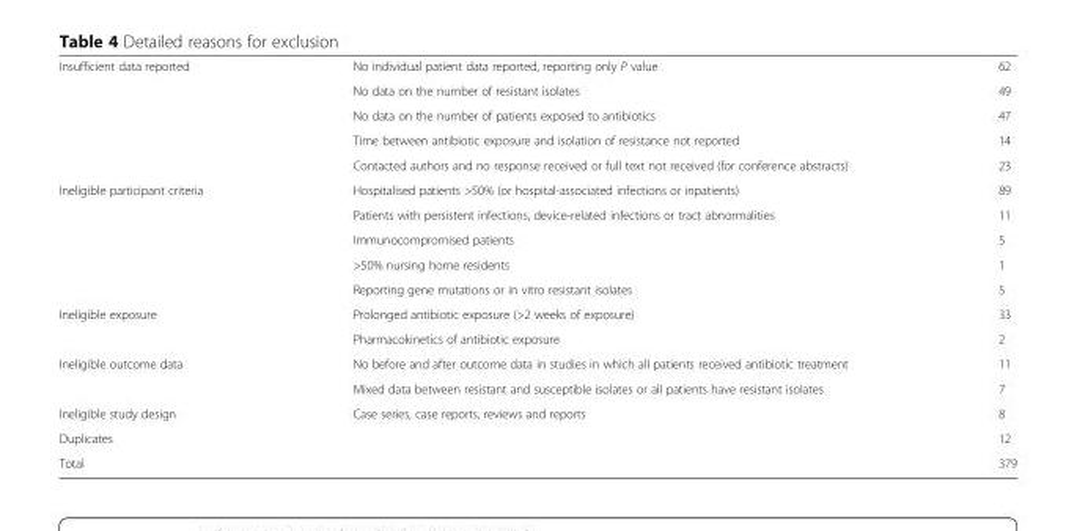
<table><tbody><tr><td rowspan="5">Insufficient data reported</td><td>No individual patient data reported, reporting only P value</td><td>62</td></tr><tr><td>No data on the number of resistant isolates</td><td>49</td></tr><tr><td>No data on the number of patients exposed to antibiotics</td><td>47</td></tr><tr><td>Time between antibiotic exposure and isolation of resistance not reported</td><td>14</td></tr><tr><td>Contacted authors and no response received or full text not received (for conference abstracts)</td><td>23</td></tr><tr><td rowspan="5">Ineligible participant criteria</td><td>Hospitalised patients &gt;50% (or hospital-associated infections or inpatients)</td><td>89</td></tr><tr><td>Patients with persistent infections, device-related infections or tract abnormalities</td><td>11</td></tr><tr><td>Immunocompromised patients</td><td>5</td></tr><tr><td>&gt;50% nursing home residents</td><td>1</td></tr><tr><td>Reporting gene mutations or in vitro resistant isolates</td><td>5</td></tr><tr><td rowspan="2">Ineligible exposure</td><td>Prolonged antibiotic exposure (&gt;2 weeks of exposure)</td><td>33</td></tr><tr><td>Pharmacokinetics of antibiotic exposure</td><td>2</td></tr><tr><td rowspan="2">Ineligible outcome data</td><td>No before and after outcome data in studies in which all patients received antibiotic treatment</td><td>11</td></tr><tr><td>Mixed data between resistant and susceptible isolates or all patients have resistant isolates</td><td>7</td></tr><tr><td>Ineligible study design</td><td>Case series, case reports, reviews and reports</td><td>8</td></tr><tr><td>Duplicates</td><td></td><td>12</td></tr><tr><td>Total</td><td></td><td>379</td></tr></tbody></table>